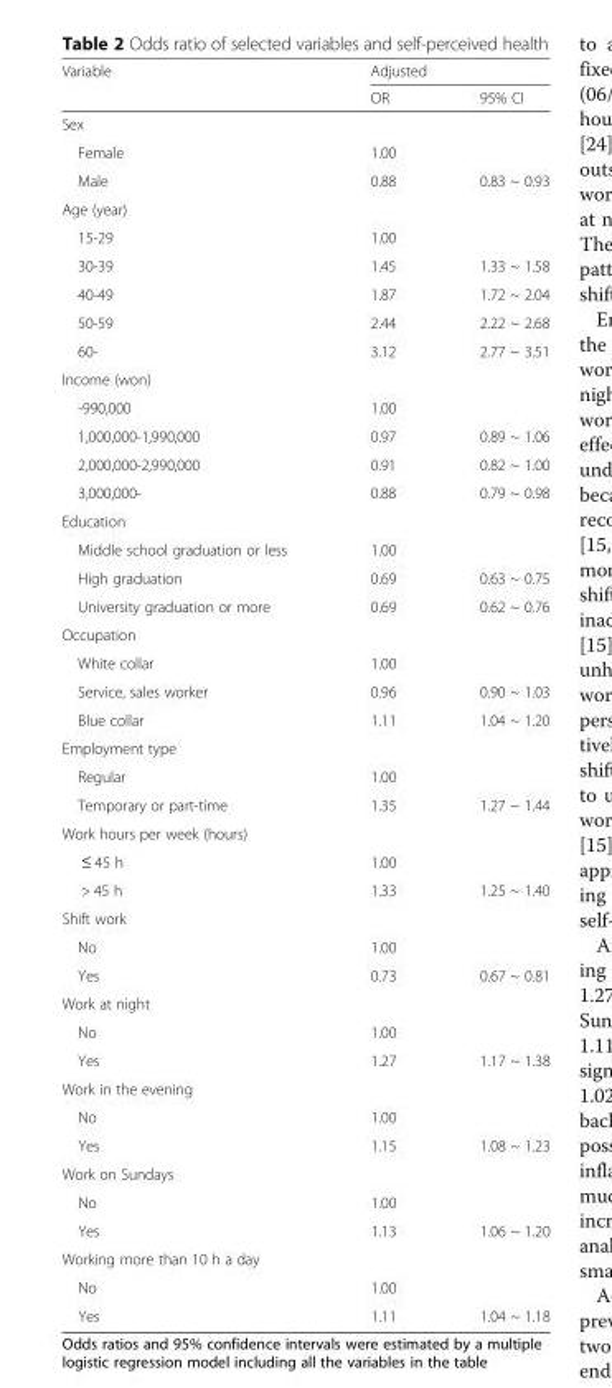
<table><thead><tr><td rowspan="2">Variable</td><td colspan="2">Adjusted</td></tr><tr><td>OR</td><td>95% CI</td></tr></thead><tbody><tr><td colspan="3">Sex</td></tr><tr><td>Female</td><td>1.00</td><td></td></tr><tr><td>Male</td><td>0.88</td><td>0.83 ~ 0.93</td></tr><tr><td colspan="3">Age (year)</td></tr><tr><td>15-29</td><td>1.00</td><td></td></tr><tr><td>30-39</td><td>1.45</td><td>1.33 ~ 1.58</td></tr><tr><td>40-49</td><td>1.87</td><td>1.72 ~ 2.04</td></tr><tr><td>50-59</td><td>2.44</td><td>2.22 ~ 2.68</td></tr><tr><td>60-</td><td>3.12</td><td>2.77 ~ 3.51</td></tr><tr><td colspan="3">Income (won)</td></tr><tr><td>-990,000</td><td>1.00</td><td></td></tr><tr><td>1,000,000-1,990,000</td><td>0.97</td><td>0.89 ~ 1.06</td></tr><tr><td>2,000,000-2,990,000</td><td>0.91</td><td>0.82 ~ 1.00</td></tr><tr><td>3,000,000-</td><td>0.88</td><td>0.79 ~ 0.98</td></tr><tr><td colspan="3">Education</td></tr><tr><td>Middle school graduation or less</td><td>1.00</td><td></td></tr><tr><td>High graduation</td><td>0.69</td><td>0.63 ~ 0.75</td></tr><tr><td>University graduation or more</td><td>0.69</td><td>0.62 ~ 0.76</td></tr><tr><td colspan="3">Occupation</td></tr><tr><td>White collar</td><td>1.00</td><td></td></tr><tr><td>Service, sales worker</td><td>0.96</td><td>0.90 ~ 1.03</td></tr><tr><td>Blue collar</td><td>1.11</td><td>1.04 ~ 1.20</td></tr><tr><td colspan="3">Employment type</td></tr><tr><td>Regular</td><td>1.00</td><td></td></tr><tr><td>Temporary or part-time</td><td>1.35</td><td>1.27 ~ 1.44</td></tr><tr><td colspan="3">Work hours per week (hours)</td></tr><tr><td>≤ 45 h</td><td>1.00</td><td></td></tr><tr><td>&gt; 45 h</td><td>1.33</td><td>1.25 ~ 1.40</td></tr><tr><td colspan="3">Shift work</td></tr><tr><td>No</td><td>1.00</td><td></td></tr><tr><td>Yes</td><td>0.73</td><td>0.67 ~ 0.81</td></tr><tr><td colspan="3">Work at night</td></tr><tr><td>No</td><td>1.00</td><td></td></tr><tr><td>Yes</td><td>1.27</td><td>1.17 ~ 1.38</td></tr><tr><td colspan="3">Work in the evening</td></tr><tr><td>No</td><td>1.00</td><td></td></tr><tr><td>Yes</td><td>1.15</td><td>1.08 ~ 1.23</td></tr><tr><td colspan="3">Work on Sundays</td></tr><tr><td>No</td><td>1.00</td><td></td></tr><tr><td>Yes</td><td>1.13</td><td>1.06 ~ 1.20</td></tr><tr><td colspan="3">Working more than 10 h a day</td></tr><tr><td>No</td><td>1.00</td><td></td></tr><tr><td>Yes</td><td>1.11</td><td>1.04 ~ 1.18</td></tr></tbody></table>